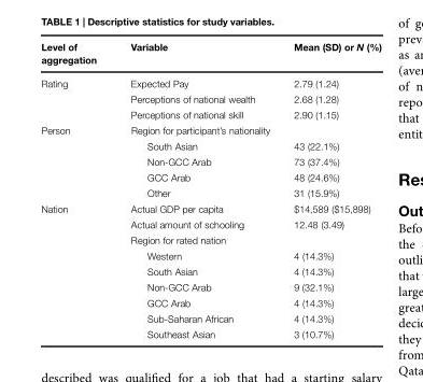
<table><thead><tr><td>Level of aggregation</td><td>Variable</td><td>Mean (SD) or N (%)</td></tr></thead><tbody><tr><td rowspan="3">Rating</td><td>Expected Pay</td><td>2.79 (1.24)</td></tr><tr><td>Perceptions of national wealth</td><td>2.68 (1.28)</td></tr><tr><td>Perceptions of national skill</td><td>2.90 (1.15)</td></tr><tr><td rowspan="5">Person</td><td>Region for participant’s nationality</td><td></td></tr><tr><td>South Asian</td><td>43 (22.1%)</td></tr><tr><td>Non-GCC Arab</td><td>73 (37.4%)</td></tr><tr><td>GCC Arab</td><td>48 (24.6%)</td></tr><tr><td>Other</td><td>31 (15.9%)</td></tr><tr><td rowspan="9">Nation</td><td>Actual GDP per capita</td><td>$14,589 ($15,898)</td></tr><tr><td>Actual amount of schooling</td><td>12.48 (3.49)</td></tr><tr><td>Region for rated nation</td><td></td></tr><tr><td>Western</td><td>4 (14.3%)</td></tr><tr><td>South Asian</td><td>4 (14.3%)</td></tr><tr><td>Non-GCC Arab</td><td>9 (32.1%)</td></tr><tr><td>GCC Arab</td><td>4 (14.3%)</td></tr><tr><td>Sub-Saharan African</td><td>4 (14.3%)</td></tr><tr><td>Southeast Asian</td><td>3 (10.7%)</td></tr></tbody></table>